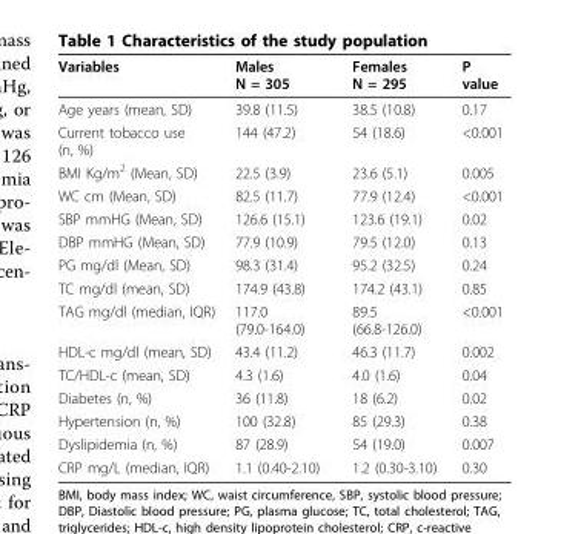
<table><thead><tr><td>Variables</td><td>Males N = 305</td><td>Females N = 295</td><td>P value</td></tr></thead><tbody><tr><td>Age years (mean, SD)</td><td>39.8 (11.5)</td><td>38.5 (10.8)</td><td>0.17</td></tr><tr><td>Current tobacco use (n, %)</td><td>144 (47.2)</td><td>54 (18.6)</td><td>&lt;0.001</td></tr><tr><td>BMI Kg/m2 (Mean, SD)</td><td>22.5 (3.9)</td><td>23.6 (5.1)</td><td>0.005</td></tr><tr><td>WC cm (Mean, SD)</td><td>82.5 (11.7)</td><td>77.9 (12.4)</td><td>&lt;0.001</td></tr><tr><td>SBP mmHG (Mean, SD)</td><td>126.6 (15.1)</td><td>123.6 (19.1)</td><td>0.02</td></tr><tr><td>DBP mmHG (Mean, SD)</td><td>77.9 (10.9)</td><td>79.5 (12.0)</td><td>0.13</td></tr><tr><td>PG mg/dl (Mean, SD)</td><td>98.3 (31.4)</td><td>95.2 (32.5)</td><td>0.24</td></tr><tr><td>TC mg/dl (mean, SD)</td><td>174.9 (43.8)</td><td>174.2 (43.1)</td><td>0.85</td></tr><tr><td>TAG mg/dl (median, IQR)</td><td>117.0 (79.0-164.0)</td><td>89.5 (66.8-126.0)</td><td>&lt;0.001</td></tr><tr><td>HDL-c mg/dl (mean, SD)</td><td>43.4 (11.2)</td><td>46.3 (11.7)</td><td>0.002</td></tr><tr><td>TC/HDL-c (mean, SD)</td><td>4.3 (1.6)</td><td>4.0 (1.6)</td><td>0.04</td></tr><tr><td>Diabetes (n, %)</td><td>36 (11.8)</td><td>18 (6.2)</td><td>0.02</td></tr><tr><td>Hypertension (n, %)</td><td>100 (32.8)</td><td>85 (29.3)</td><td>0.38</td></tr><tr><td>Dyslipidemia (n, %)</td><td>87 (28.9)</td><td>54 (19.0)</td><td>0.007</td></tr><tr><td>CRP mg/L (median, IQR)</td><td>1.1 (0.40-2.10)</td><td>1.2 (0.30-3.10)</td><td>0.30</td></tr></tbody></table>